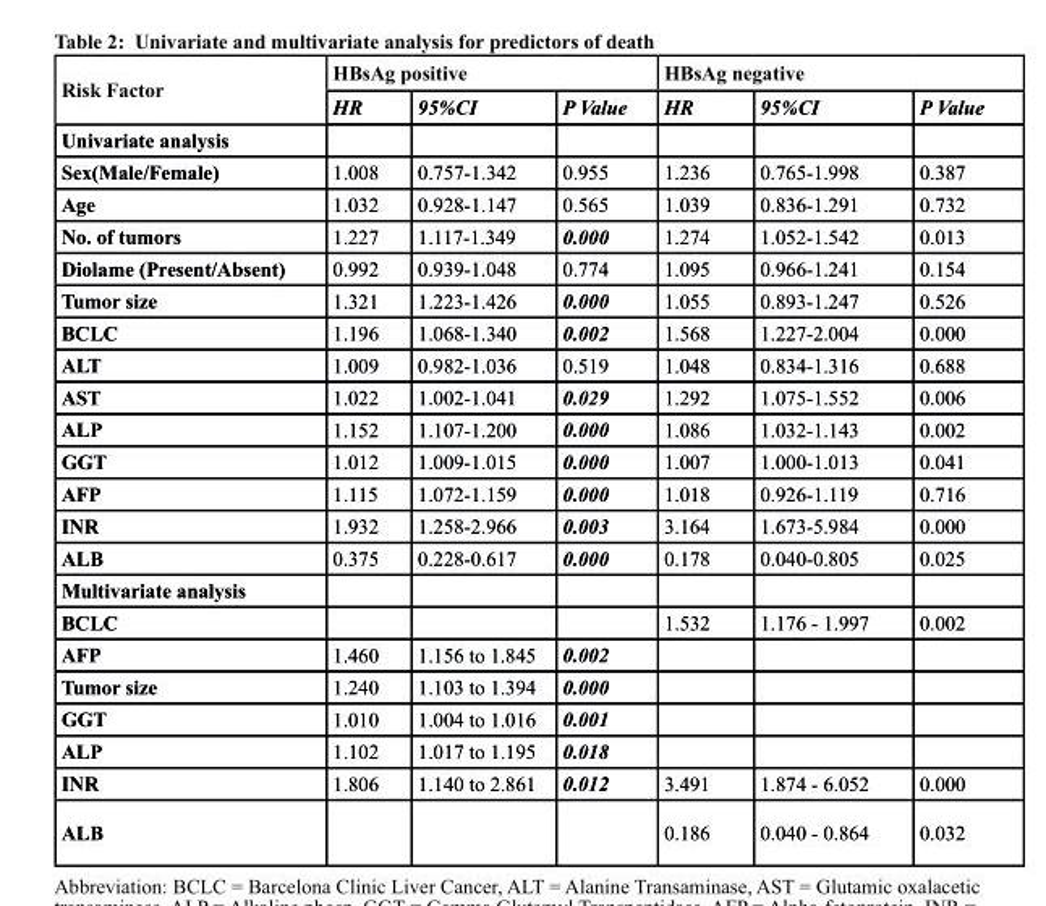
<table><thead><tr><td rowspan="2">risk Factor</td><td colspan="3">HbsAg positive</td><td colspan="3">HbsAg negative</td></tr><tr><td>HR</td><td>95%CI</td><td>P Value</td><td>HR</td><td>95%CI</td><td>P Value</td></tr></thead><tbody><tr><td colspan="7">univariate analysis</td></tr><tr><td>sex(Male/Female)</td><td>1.008</td><td>0.757-1.342</td><td>0.955</td><td>1.236</td><td>0.765-1.998</td><td>0.387</td></tr><tr><td>Age</td><td>1.032</td><td>0.928-1.147</td><td>0.565</td><td>1.039</td><td>0.836-1.291</td><td>0.732</td></tr><tr><td>no. of tumors</td><td>1.227</td><td>1.117-1.349</td><td>0.000</td><td>1.274</td><td>1.052-1.542</td><td>0.013</td></tr><tr><td>diolame (Present/Absent)</td><td>0.992</td><td>0.939-1.048</td><td>0.774</td><td>1.095</td><td>0.966-1.241</td><td>0.154</td></tr><tr><td>tumor size</td><td>1.321</td><td>1.223-1.426</td><td>0.000</td><td>1.055</td><td>0.893-1.247</td><td>0.526</td></tr><tr><td>bclc</td><td>1.196</td><td>1.068-1.340</td><td>0.002</td><td>1.568</td><td>1.227-2.004</td><td>0.000</td></tr><tr><td>Alt</td><td>1.009</td><td>0.982-1.036</td><td>0.519</td><td>1.048</td><td>0.834-1.316</td><td>0.688</td></tr><tr><td>Ast</td><td>1.022</td><td>1.002-1.041</td><td>0.029</td><td>1.292</td><td>1.075-1.552</td><td>0.006</td></tr><tr><td>AlP</td><td>1.152</td><td>1.107-1.200</td><td>0.000</td><td>1.086</td><td>1.032-1.143</td><td>0.002</td></tr><tr><td>GGt</td><td>1.012</td><td>1.009-1.015</td><td>0.000</td><td>1.007</td><td>1.000-1.013</td><td>0.041</td></tr><tr><td>AFP</td><td>1.115</td><td>1.072-1.159</td><td>0.000</td><td>1.018</td><td>0.926-1.119</td><td>0.716</td></tr><tr><td>Inr</td><td>1.932</td><td>1.258-2.966</td><td>0.003</td><td>3.164</td><td>1.673-5.984</td><td>0.000</td></tr><tr><td>Alb</td><td>0.375</td><td>0.228-0.617</td><td>0.000</td><td>0.178</td><td>0.040-0.805</td><td>0.025</td></tr><tr><td colspan="7">Multivariate analysis</td></tr><tr><td>bclc</td><td></td><td></td><td></td><td>1.532</td><td>1.176 - 1.997</td><td>0.002</td></tr><tr><td>AFP</td><td>1.460</td><td>1.156 to 1.845</td><td>0.002</td><td></td><td></td><td></td></tr><tr><td>tumor size</td><td>1.240</td><td>1.103 to 1.394</td><td>0.000</td><td></td><td></td><td></td></tr><tr><td>GGt</td><td>1.010</td><td>1.004 to 1.016</td><td>0.001</td><td></td><td></td><td></td></tr><tr><td>AlP</td><td>1.102</td><td>1.017 to 1.195</td><td>0.018</td><td></td><td></td><td></td></tr><tr><td>Inr</td><td>1.806</td><td>1.140 to 2.861</td><td>0.012</td><td>3.491</td><td>1.874 - 6.052</td><td>0.000</td></tr><tr><td>Alb</td><td></td><td></td><td></td><td>0.186</td><td>0.040 - 0.864</td><td>0.032</td></tr></tbody></table>